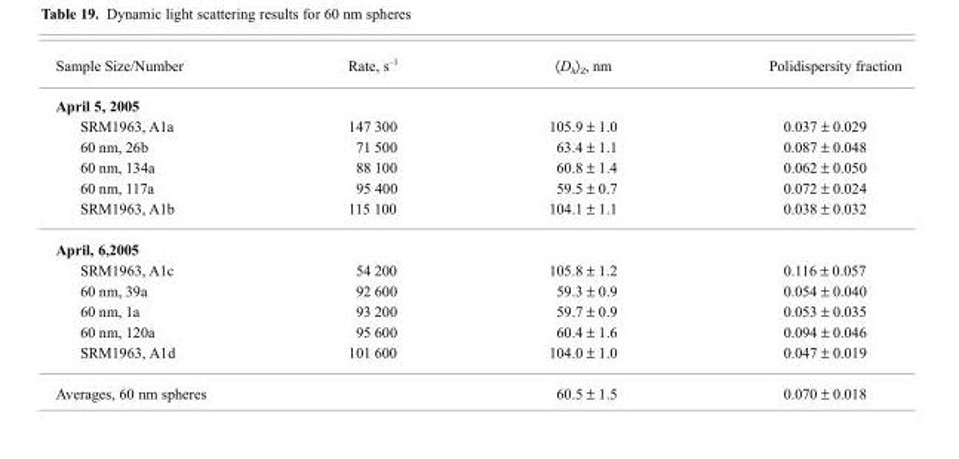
<table><thead><tr><td>Sample Size/Number</td><td>Rate, s<sup>–1</sup></td><td>〈Dh〉Z, nm</td><td>Polidispersity fraction</td></tr></thead><tbody><tr><td colspan="4">April 5, 2005</td></tr><tr><td>SRM1963, A1a</td><td>147 300</td><td>105.9 ± 1.0</td><td>0.037 ± 0.029</td></tr><tr><td>60 nm, 26b</td><td>71 500</td><td>63.4 ± 1.1</td><td>0.087 ± 0.048</td></tr><tr><td>60 nm, 134a</td><td>88 100</td><td>60.8 ± 1.4</td><td>0.062 ± 0.050</td></tr><tr><td>60 nm, 117a</td><td>95 400</td><td>59.5 ± 0.7</td><td>0.072 ± 0.024</td></tr><tr><td>SRM1963, A1b</td><td>115 100</td><td>104.1 ± 1.1</td><td>0.038 ± 0.032</td></tr><tr><td colspan="4">April, 6,2005</td></tr><tr><td>SRM1963, A1c</td><td>54 200</td><td>105.8 ± 1.2</td><td>0.116 ± 0.057</td></tr><tr><td>60 nm, 39a</td><td>92 600</td><td>59.3 ± 0.9</td><td>0.054 ± 0.040</td></tr><tr><td>60 nm, 1a</td><td>93 200</td><td>59.7 ± 0.9</td><td>0.053 ± 0.035</td></tr><tr><td>60 nm, 120a</td><td>95 600</td><td>60.4 ± 1.6</td><td>0.094 ± 0.046</td></tr><tr><td>SRM1963, A1d</td><td>101 600</td><td>104.0 ± 1.0</td><td>0.047 ± 0.019</td></tr><tr><td>Averages, 60 nm spheres</td><td></td><td>60.5 ± 1.5</td><td>0.070 ± 0.018</td></tr></tbody></table>